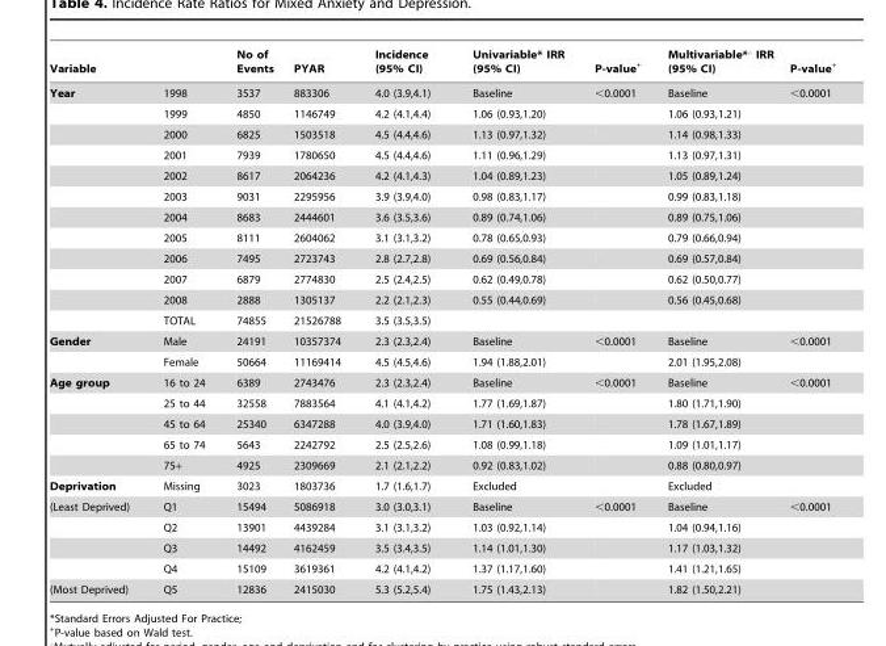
<table><thead><tr><td>Variable</td><td></td><td>No of Events</td><td>PYAR</td><td>Incidence (95% CI)</td><td>Univariable* IRR (95% CI)</td><td>P-value+</td><td>Multivariable*‘ IRR (95% CI)</td><td>P-value+</td></tr></thead><tbody><tr><td rowspan="12">Year</td><td>1998</td><td>3537</td><td>883306</td><td>4.0 (3.9,4.1)</td><td>Baseline</td><td>&lt;0.0001</td><td>Baseline</td><td>&lt;0.0001</td></tr><tr><td>1999</td><td>4850</td><td>1146749</td><td>4.2 (4.1,4.4)</td><td>1.06 (0.93,1.20)</td><td></td><td>1.06 (0.93,1.21)</td><td></td></tr><tr><td>2000</td><td>6825</td><td>1503518</td><td>4.5 (4.4,4.6)</td><td>1.13 (0.97,1.32)</td><td></td><td>1.14 (0.98,1.33)</td><td></td></tr><tr><td>2001</td><td>7939</td><td>1780650</td><td>4.5 (4.4,4.6)</td><td>1.11 (0.96,1.29)</td><td></td><td>1.13 (0.97,1.31)</td><td></td></tr><tr><td>2002</td><td>8617</td><td>2064236</td><td>4.2 (4.1,4.3)</td><td>1.04 (0.89,1.23)</td><td></td><td>1.05 (0.89,1.24)</td><td></td></tr><tr><td>2003</td><td>9031</td><td>2295956</td><td>3.9 (3.9,4.0)</td><td>0.98 (0.83,1.17)</td><td></td><td>0.99 (0.83,1.18)</td><td></td></tr><tr><td>2004</td><td>8683</td><td>2444601</td><td>3.6 (3.5,3.6)</td><td>0.89 (0.74,1.06)</td><td></td><td>0.89 (0.75,1.06)</td><td></td></tr><tr><td>2005</td><td>8111</td><td>2604062</td><td>3.1 (3.1,3.2)</td><td>0.78 (0.65,0.93)</td><td></td><td>0.79 (0.66,0.94)</td><td></td></tr><tr><td>2006</td><td>7495</td><td>2723743</td><td>2.8 (2.7,2.8)</td><td>0.69 (0.56,0.84)</td><td></td><td>0.69 (0.57,0.84)</td><td></td></tr><tr><td>2007</td><td>6879</td><td>2774830</td><td>2.5 (2.4,2.5)</td><td>0.62 (0.49,0.78)</td><td></td><td>0.62 (0.50,0.77)</td><td></td></tr><tr><td>2008</td><td>2888</td><td>1305137</td><td>2.2 (2.1,2.3)</td><td>0.55 (0.44,0.69)</td><td></td><td>0.56 (0.45,0.68)</td><td></td></tr><tr><td>TOTAL</td><td>74855</td><td>21526788</td><td>3.5 (3.5,3.5)</td><td></td><td></td><td></td><td></td></tr><tr><td rowspan="2">Gender</td><td>Male</td><td>24191</td><td>10357374</td><td>2.3 (2.3,2.4)</td><td>Baseline</td><td>&lt;0.0001</td><td>Baseline</td><td>&lt;0.0001</td></tr><tr><td>Female</td><td>50664</td><td>11169414</td><td>4.5 (4.5,4.6)</td><td>1.94 (1.88,2.01)</td><td></td><td>2.01 (1.95,2.08)</td><td></td></tr><tr><td rowspan="5">Age group</td><td>16 to 24</td><td>6389</td><td>2743476</td><td>2.3 (2.3,2.4)</td><td>Baseline</td><td>&lt;0.0001</td><td>Baseline</td><td>&lt;0.0001</td></tr><tr><td>25 to 44</td><td>32558</td><td>7883564</td><td>4.1 (4.1,4.2)</td><td>1.77 (1.69,1.87)</td><td></td><td>1.80 (1.71,1.90)</td><td></td></tr><tr><td>45 to 64</td><td>25340</td><td>6347288</td><td>4.0 (3.9,4.0)</td><td>1.71 (1.60,1.83)</td><td></td><td>1.78 (1.67,1.89)</td><td></td></tr><tr><td>65 to 74</td><td>5643</td><td>2242792</td><td>2.5 (2.5,2.6)</td><td>1.08 (0.99,1.18)</td><td></td><td>1.09 (1.01,1.17)</td><td></td></tr><tr><td>75+</td><td>4925</td><td>2309669</td><td>2.1 (2.1,2.2)</td><td>0.92 (0.83,1.02)</td><td></td><td>0.88 (0.80,0.97)</td><td></td></tr><tr><td>Deprivation</td><td>Missing</td><td>3023</td><td>1803736</td><td>1.7 (1.6,1.7)</td><td>Excluded</td><td></td><td>Excluded</td><td></td></tr><tr><td rowspan="4">(Least Deprived)</td><td>Q1</td><td>15494</td><td>5086918</td><td>3.0 (3.0,3.1)</td><td>Baseline</td><td>&lt;0.0001</td><td>Baseline</td><td>&lt;0.0001</td></tr><tr><td>Q2</td><td>13901</td><td>4439284</td><td>3.1 (3.1,3.2)</td><td>1.03 (0.92,1.14)</td><td></td><td>1.04 (0.94,1.16)</td><td></td></tr><tr><td>Q3</td><td>14492</td><td>4162459</td><td>3.5 (3.4,3.5)</td><td>1.14 (1.01,1.30)</td><td></td><td>1.17 (1.03,1.32)</td><td></td></tr><tr><td>Q4</td><td>15109</td><td>3619361</td><td>4.2 (4.1,4.2)</td><td>1.37 (1.17,1.60)</td><td></td><td>1.41 (1.21,1.65)</td><td></td></tr><tr><td>(Most Deprived)</td><td>Q5</td><td>12836</td><td>2415030</td><td>5.3 (5.2,5.4)</td><td>1.75 (1.43,2.13)</td><td></td><td>1.82 (1.50,2.21)</td><td></td></tr></tbody></table>